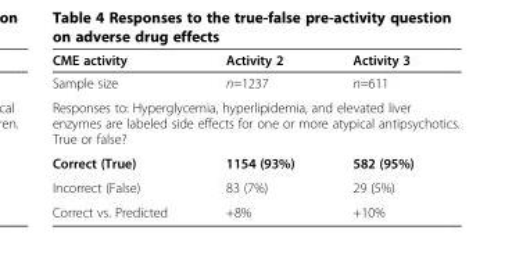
<table><thead><tr><td>CME activity</td><td>Activity 2</td><td>Activity 3</td></tr></thead><tbody><tr><td>Sample size</td><td>n=1237</td><td>n=611</td></tr><tr><td colspan="3">Responses to: Hyperglycemia, hyperlipidemia, and elevated liver enzymes are labeled side effects for one or more atypical antipsychotics. True or false?</td></tr><tr><td>Correct (True)</td><td>1154 (93%)</td><td>582 (95%)</td></tr><tr><td>Incorrect (False)</td><td>83 (7%)</td><td>29 (5%)</td></tr><tr><td>Correct vs. Predicted</td><td>+8%</td><td>+10%</td></tr></tbody></table>